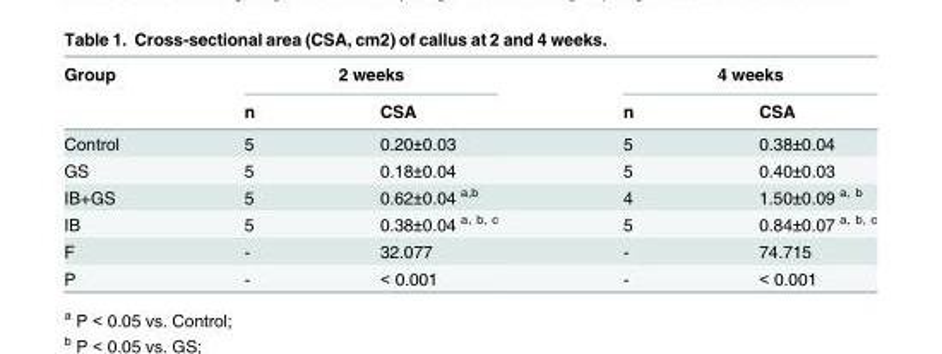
<table><thead><tr><td rowspan="2">Group</td><td colspan="2">2 weeks</td><td colspan="2">4 weeks</td></tr><tr><td>n</td><td>CSA</td><td>n</td><td>CSA</td></tr></thead><tbody><tr><td>Control</td><td>5</td><td>0.20±0.03</td><td>5</td><td>0.38±0.04</td></tr><tr><td>GS</td><td>5</td><td>0.18±0.04</td><td>5</td><td>0.40±0.03</td></tr><tr><td>IB+GS</td><td>5</td><td>0.62±0.04 <sup>a,b</sup></td><td>4</td><td>1.50±0.09 <sup>a, b</sup></td></tr><tr><td>IB</td><td>5</td><td>0.38±0.04 <sup>a, b, c</sup></td><td>5</td><td>0.84±0.07 <sup>a, b, c</sup></td></tr><tr><td>F</td><td>-</td><td>32.077</td><td>-</td><td>74.715</td></tr><tr><td>P</td><td>-</td><td>&lt; 0.001</td><td>-</td><td>&lt; 0.001</td></tr></tbody></table>